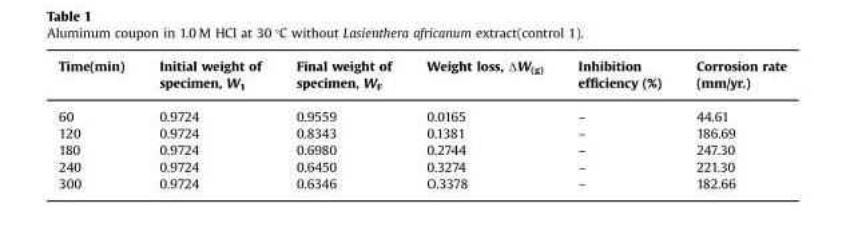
<table><thead><tr><td>Time(min)</td><td>Initial weight of specimen, W<sub>1</sub></td><td>Final weight of specimen, W<sub>F</sub></td><td>Weight loss, ΔW(g)</td><td>Inhibition efficiency (%)</td><td>Corrosion rate (mm/yr.)</td></tr></thead><tbody><tr><td>60</td><td>0.9724</td><td>0.9559</td><td>0.0165</td><td>–</td><td>44.61</td></tr><tr><td>120</td><td>0.9724</td><td>0.8343</td><td>0.1381</td><td>–</td><td>186.69</td></tr><tr><td>180</td><td>0.9724</td><td>0.6980</td><td>0.2744</td><td>–</td><td>247.30</td></tr><tr><td>240</td><td>0.9724</td><td>0.6450</td><td>0.3274</td><td>–</td><td>221.30</td></tr><tr><td>300</td><td>0.9724</td><td>0.6346</td><td>O.3378</td><td>–</td><td>182.66</td></tr></tbody></table>